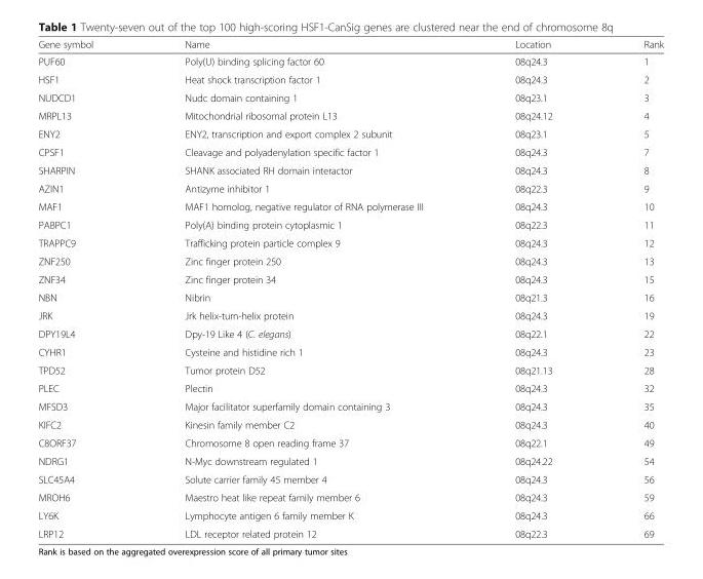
<table><thead><tr><td>Gene symbol</td><td>Name</td><td>Location</td><td>Rank</td></tr></thead><tbody><tr><td>PUF60</td><td>Poly(U) binding splicing factor 60</td><td>08q24.3</td><td>1</td></tr><tr><td>HSF1</td><td>Heat shock transcription factor 1</td><td>08q24.3</td><td>2</td></tr><tr><td>NUDCD1</td><td>Nudc domain containing 1</td><td>08q23.1</td><td>3</td></tr><tr><td>MRPL13</td><td>Mitochondrial ribosomal protein L13</td><td>08q24.12</td><td>4</td></tr><tr><td>ENY2</td><td>ENY2, transcription and export complex 2 subunit</td><td>08q23.1</td><td>5</td></tr><tr><td>CPSF1</td><td>Cleavage and polyadenylation specific factor 1</td><td>08q24.3</td><td>7</td></tr><tr><td>SHARPIN</td><td>SHANK associated RH domain interactor</td><td>08q24.3</td><td>8</td></tr><tr><td>AZIN1</td><td>Antizyme inhibitor 1</td><td>08q22.3</td><td>9</td></tr><tr><td>MAF1</td><td>MAF1 homolog, negative regulator of RNA polymerase III</td><td>08q24.3</td><td>10</td></tr><tr><td>PABPC1</td><td>Poly(A) binding protein cytoplasmic 1</td><td>08q22.3</td><td>11</td></tr><tr><td>TRAPPC9</td><td>Trafficking protein particle complex 9</td><td>08q24.3</td><td>12</td></tr><tr><td>ZNF250</td><td>Zinc finger protein 250</td><td>08q24.3</td><td>13</td></tr><tr><td>ZNF34</td><td>Zinc finger protein 34</td><td>08q24.3</td><td>15</td></tr><tr><td>NBN</td><td>Nibrin</td><td>08q21.3</td><td>16</td></tr><tr><td>JRK</td><td>Jrk helix-turn-helix protein</td><td>08q24.3</td><td>19</td></tr><tr><td>DPY19L4</td><td>Dpy-19 Like 4 (C. elegans)</td><td>08q22.1</td><td>22</td></tr><tr><td>CYHR1</td><td>Cysteine and histidine rich 1</td><td>08q24.3</td><td>23</td></tr><tr><td>TPD52</td><td>Tumor protein D52</td><td>08q21.13</td><td>28</td></tr><tr><td>PLEC</td><td>Plectin</td><td>08q24.3</td><td>32</td></tr><tr><td>MFSD3</td><td>Major facilitator superfamily domain containing 3</td><td>08q24.3</td><td>35</td></tr><tr><td>KIFC2</td><td>Kinesin family member C2</td><td>08q24.3</td><td>40</td></tr><tr><td>C8ORF37</td><td>Chromosome 8 open reading frame 37</td><td>08q22.1</td><td>49</td></tr><tr><td>NDRG1</td><td>N-Myc downstream regulated 1</td><td>08q24.22</td><td>54</td></tr><tr><td>SLC45A4</td><td>Solute carrier family 45 member 4</td><td>08q24.3</td><td>56</td></tr><tr><td>MROH6</td><td>Maestro heat like repeat family member 6</td><td>08q24.3</td><td>59</td></tr><tr><td>LY6K</td><td>Lymphocyte antigen 6 family member K</td><td>08q24.3</td><td>66</td></tr><tr><td>LRP12</td><td>LDL receptor related protein 12</td><td>08q22.3</td><td>69</td></tr></tbody></table>